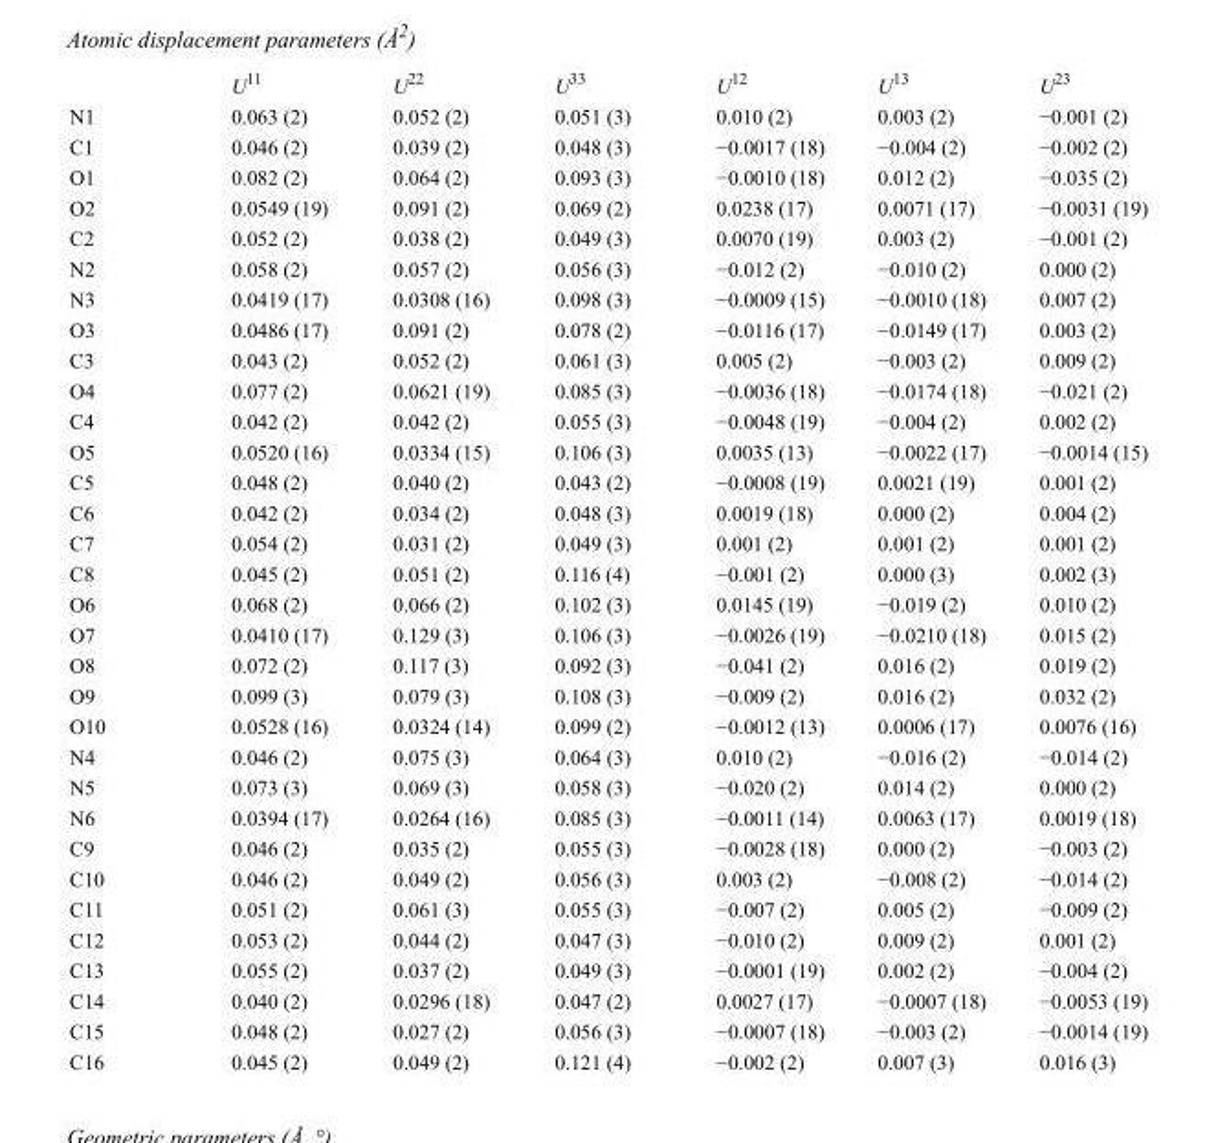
<table><thead><tr><td></td><td>U<sup>11</sup></td><td>U<sup>22</sup></td><td>U<sup>33</sup></td><td>U<sup>12</sup></td><td>U<sup>13</sup></td><td>U<sup>23</sup></td></tr></thead><tbody><tr><td>N1</td><td>0.063 (2)</td><td>0.052 (2)</td><td>0.051 (3)</td><td>0.010 (2)</td><td>0.003 (2)</td><td>−0.001 (2)</td></tr><tr><td>C1</td><td>0.046 (2)</td><td>0.039 (2)</td><td>0.048 (3)</td><td>−0.0017 (18)</td><td>−0.004 (2)</td><td>−0.002 (2)</td></tr><tr><td>O1</td><td>0.082 (2)</td><td>0.064 (2)</td><td>0.093 (3)</td><td>−0.0010 (18)</td><td>0.012 (2)</td><td>−0.035 (2)</td></tr><tr><td>O2</td><td>0.0549 (19)</td><td>0.091 (2)</td><td>0.069 (2)</td><td>0.0238 (17)</td><td>0.0071 (17)</td><td>−0.0031 (19)</td></tr><tr><td>C2</td><td>0.052 (2)</td><td>0.038 (2)</td><td>0.049 (3)</td><td>0.0070 (19)</td><td>0.003 (2)</td><td>−0.001 (2)</td></tr><tr><td>N2</td><td>0.058 (2)</td><td>0.057 (2)</td><td>0.056 (3)</td><td>−0.012 (2)</td><td>−0.010 (2)</td><td>0.000 (2)</td></tr><tr><td>N3</td><td>0.0419 (17)</td><td>0.0308 (16)</td><td>0.098 (3)</td><td>−0.0009 (15)</td><td>−0.0010 (18)</td><td>0.007 (2)</td></tr><tr><td>O3</td><td>0.0486 (17)</td><td>0.091 (2)</td><td>0.078 (2)</td><td>−0.0116 (17)</td><td>−0.0149 (17)</td><td>0.003 (2)</td></tr><tr><td>C3</td><td>0.043 (2)</td><td>0.052 (2)</td><td>0.061 (3)</td><td>0.005 (2)</td><td>−0.003 (2)</td><td>0.009 (2)</td></tr><tr><td>O4</td><td>0.077 (2)</td><td>0.0621 (19)</td><td>0.085 (3)</td><td>−0.0036 (18)</td><td>−0.0174 (18)</td><td>−0.021 (2)</td></tr><tr><td>C4</td><td>0.042 (2)</td><td>0.042 (2)</td><td>0.055 (3)</td><td>−0.0048 (19)</td><td>−0.004 (2)</td><td>0.002 (2)</td></tr><tr><td>O5</td><td>0.0520 (16)</td><td>0.0334 (15)</td><td>0.106 (3)</td><td>0.0035 (13)</td><td>−0.0022 (17)</td><td>−0.0014 (15)</td></tr><tr><td>C5</td><td>0.048 (2)</td><td>0.040 (2)</td><td>0.043 (2)</td><td>−0.0008 (19)</td><td>0.0021 (19)</td><td>0.001 (2)</td></tr><tr><td>C6</td><td>0.042 (2)</td><td>0.034 (2)</td><td>0.048 (3)</td><td>0.0019 (18)</td><td>0.000 (2)</td><td>0.004 (2)</td></tr><tr><td>C7</td><td>0.054 (2)</td><td>0.031 (2)</td><td>0.049 (3)</td><td>0.001 (2)</td><td>0.001 (2)</td><td>0.001 (2)</td></tr><tr><td>C8</td><td>0.045 (2)</td><td>0.051 (2)</td><td>0.116 (4)</td><td>−0.001 (2)</td><td>0.000 (3)</td><td>0.002 (3)</td></tr><tr><td>O6</td><td>0.068 (2)</td><td>0.066 (2)</td><td>0.102 (3)</td><td>0.0145 (19)</td><td>−0.019 (2)</td><td>0.010 (2)</td></tr><tr><td>O7</td><td>0.0410 (17)</td><td>0.129 (3)</td><td>0.106 (3)</td><td>−0.0026 (19)</td><td>−0.0210 (18)</td><td>0.015 (2)</td></tr><tr><td>O8</td><td>0.072 (2)</td><td>0.117 (3)</td><td>0.092 (3)</td><td>−0.041 (2)</td><td>0.016 (2)</td><td>0.019 (2)</td></tr><tr><td>O9</td><td>0.099 (3)</td><td>0.079 (3)</td><td>0.108 (3)</td><td>−0.009 (2)</td><td>0.016 (2)</td><td>0.032 (2)</td></tr><tr><td>O10</td><td>0.0528 (16)</td><td>0.0324 (14)</td><td>0.099 (2)</td><td>−0.0012 (13)</td><td>0.0006 (17)</td><td>0.0076 (16)</td></tr><tr><td>N4</td><td>0.046 (2)</td><td>0.075 (3)</td><td>0.064 (3)</td><td>0.010 (2)</td><td>−0.016 (2)</td><td>−0.014 (2)</td></tr><tr><td>N5</td><td>0.073 (3)</td><td>0.069 (3)</td><td>0.058 (3)</td><td>−0.020 (2)</td><td>0.014 (2)</td><td>0.000 (2)</td></tr><tr><td>N6</td><td>0.0394 (17)</td><td>0.0264 (16)</td><td>0.085 (3)</td><td>−0.0011 (14)</td><td>0.0063 (17)</td><td>0.0019 (18)</td></tr><tr><td>C9</td><td>0.046 (2)</td><td>0.035 (2)</td><td>0.055 (3)</td><td>−0.0028 (18)</td><td>0.000 (2)</td><td>−0.003 (2)</td></tr><tr><td>C10</td><td>0.046 (2)</td><td>0.049 (2)</td><td>0.056 (3)</td><td>0.003 (2)</td><td>−0.008 (2)</td><td>−0.014 (2)</td></tr><tr><td>C11</td><td>0.051 (2)</td><td>0.061 (3)</td><td>0.055 (3)</td><td>−0.007 (2)</td><td>0.005 (2)</td><td>−0.009 (2)</td></tr><tr><td>C12</td><td>0.053 (2)</td><td>0.044 (2)</td><td>0.047 (3)</td><td>−0.010 (2)</td><td>0.009 (2)</td><td>0.001 (2)</td></tr><tr><td>C13</td><td>0.055 (2)</td><td>0.037 (2)</td><td>0.049 (3)</td><td>−0.0001 (19)</td><td>0.002 (2)</td><td>−0.004 (2)</td></tr><tr><td>C14</td><td>0.040 (2)</td><td>0.0296 (18)</td><td>0.047 (2)</td><td>0.0027 (17)</td><td>−0.0007 (18)</td><td>−0.0053 (19)</td></tr><tr><td>C15</td><td>0.048 (2)</td><td>0.027 (2)</td><td>0.056 (3)</td><td>−0.0007 (18)</td><td>−0.003 (2)</td><td>−0.0014 (19)</td></tr><tr><td>C16</td><td>0.045 (2)</td><td>0.049 (2)</td><td>0.121 (4)</td><td>−0.002 (2)</td><td>0.007 (3)</td><td>0.016 (3)</td></tr></tbody></table>